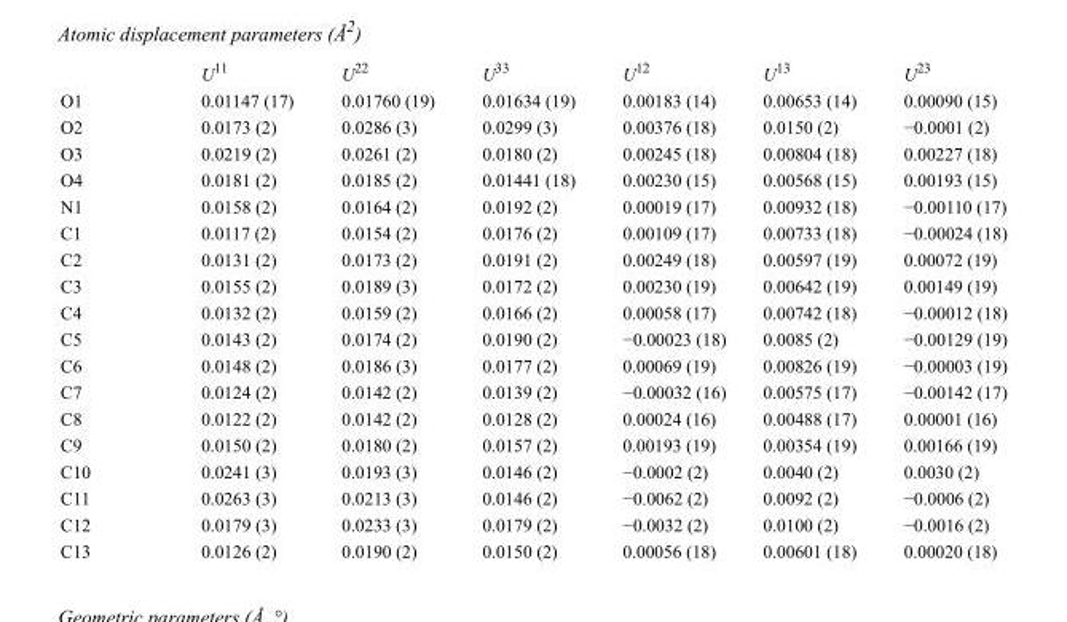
<table><thead><tr><td></td><td>U<sup>11</sup></td><td>U<sup>22</sup></td><td>U<sup>33</sup></td><td>U<sup>12</sup></td><td>U<sup>13</sup></td><td>U<sup>23</sup></td></tr></thead><tbody><tr><td>O1</td><td>0.01147 (17)</td><td>0.01760 (19)</td><td>0.01634 (19)</td><td>0.00183 (14)</td><td>0.00653 (14)</td><td>0.00090 (15)</td></tr><tr><td>O2</td><td>0.0173 (2)</td><td>0.0286 (3)</td><td>0.0299 (3)</td><td>0.00376 (18)</td><td>0.0150 (2)</td><td>−0.0001 (2)</td></tr><tr><td>O3</td><td>0.0219 (2)</td><td>0.0261 (2)</td><td>0.0180 (2)</td><td>0.00245 (18)</td><td>0.00804 (18)</td><td>0.00227 (18)</td></tr><tr><td>O4</td><td>0.0181 (2)</td><td>0.0185 (2)</td><td>0.01441 (18)</td><td>0.00230 (15)</td><td>0.00568 (15)</td><td>0.00193 (15)</td></tr><tr><td>N1</td><td>0.0158 (2)</td><td>0.0164 (2)</td><td>0.0192 (2)</td><td>0.00019 (17)</td><td>0.00932 (18)</td><td>−0.00110 (17)</td></tr><tr><td>C1</td><td>0.0117 (2)</td><td>0.0154 (2)</td><td>0.0176 (2)</td><td>0.00109 (17)</td><td>0.00733 (18)</td><td>−0.00024 (18)</td></tr><tr><td>C2</td><td>0.0131 (2)</td><td>0.0173 (2)</td><td>0.0191 (2)</td><td>0.00249 (18)</td><td>0.00597 (19)</td><td>0.00072 (19)</td></tr><tr><td>C3</td><td>0.0155 (2)</td><td>0.0189 (3)</td><td>0.0172 (2)</td><td>0.00230 (19)</td><td>0.00642 (19)</td><td>0.00149 (19)</td></tr><tr><td>C4</td><td>0.0132 (2)</td><td>0.0159 (2)</td><td>0.0166 (2)</td><td>0.00058 (17)</td><td>0.00742 (18)</td><td>−0.00012 (18)</td></tr><tr><td>C5</td><td>0.0143 (2)</td><td>0.0174 (2)</td><td>0.0190 (2)</td><td>−0.00023 (18)</td><td>0.0085 (2)</td><td>−0.00129 (19)</td></tr><tr><td>C6</td><td>0.0148 (2)</td><td>0.0186 (3)</td><td>0.0177 (2)</td><td>0.00069 (19)</td><td>0.00826 (19)</td><td>−0.00003 (19)</td></tr><tr><td>C7</td><td>0.0124 (2)</td><td>0.0142 (2)</td><td>0.0139 (2)</td><td>−0.00032 (16)</td><td>0.00575 (17)</td><td>−0.00142 (17)</td></tr><tr><td>C8</td><td>0.0122 (2)</td><td>0.0142 (2)</td><td>0.0128 (2)</td><td>0.00024 (16)</td><td>0.00488 (17)</td><td>0.00001 (16)</td></tr><tr><td>C9</td><td>0.0150 (2)</td><td>0.0180 (2)</td><td>0.0157 (2)</td><td>0.00193 (19)</td><td>0.00354 (19)</td><td>0.00166 (19)</td></tr><tr><td>C10</td><td>0.0241 (3)</td><td>0.0193 (3)</td><td>0.0146 (2)</td><td>−0.0002 (2)</td><td>0.0040 (2)</td><td>0.0030 (2)</td></tr><tr><td>C11</td><td>0.0263 (3)</td><td>0.0213 (3)</td><td>0.0146 (2)</td><td>−0.0062 (2)</td><td>0.0092 (2)</td><td>−0.0006 (2)</td></tr><tr><td>C12</td><td>0.0179 (3)</td><td>0.0233 (3)</td><td>0.0179 (2)</td><td>−0.0032 (2)</td><td>0.0100 (2)</td><td>−0.0016 (2)</td></tr><tr><td>C13</td><td>0.0126 (2)</td><td>0.0190 (2)</td><td>0.0150 (2)</td><td>0.00056 (18)</td><td>0.00601 (18)</td><td>0.00020 (18)</td></tr></tbody></table>